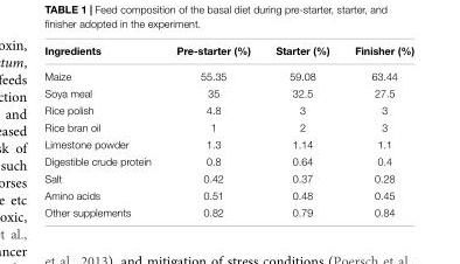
<table><thead><tr><td>Ingredients</td><td>Pre-starter (%)</td><td>Starter (%)</td><td>Finisher (%)</td></tr></thead><tbody><tr><td>Maize</td><td>55.35</td><td>59.08</td><td>63.44</td></tr><tr><td>Soya meal</td><td>35</td><td>32.5</td><td>27.5</td></tr><tr><td>Rice polish</td><td>4.8</td><td>3</td><td>3</td></tr><tr><td>Rice bran oil</td><td>1</td><td>2</td><td>3</td></tr><tr><td>Limestone powder</td><td>1.3</td><td>1.14</td><td>1.1</td></tr><tr><td>Digestible crude protein</td><td>0.8</td><td>0.64</td><td>0.4</td></tr><tr><td>Salt</td><td>0.42</td><td>0.37</td><td>0.28</td></tr><tr><td>Amino acids</td><td>0.51</td><td>0.48</td><td>0.45</td></tr><tr><td>Other supplements</td><td>0.82</td><td>0.79</td><td>0.84</td></tr></tbody></table>